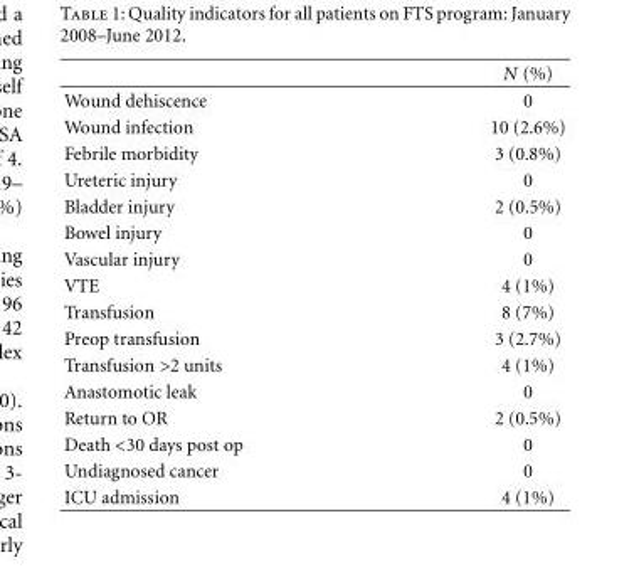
<table><thead><tr><td></td><td>N (%)</td></tr></thead><tbody><tr><td>Wound dehiscence</td><td>0</td></tr><tr><td>Wound infection</td><td>10 (2.6%)</td></tr><tr><td>Febrile morbidity</td><td>3 (0.8%)</td></tr><tr><td>Ureteric injury</td><td>0</td></tr><tr><td>Bladder injury</td><td>2 (0.5%)</td></tr><tr><td>Bowel injury</td><td>0</td></tr><tr><td>Vascular injury</td><td>0</td></tr><tr><td>VTE</td><td>4 (1%)</td></tr><tr><td>Transfusion</td><td>8 (7%)</td></tr><tr><td>Preop transfusion</td><td>3 (2.7%)</td></tr><tr><td>Transfusion &gt;2 units</td><td>4 (1%)</td></tr><tr><td>Anastomotic leak</td><td>0</td></tr><tr><td>Return to OR</td><td>2 (0.5%)</td></tr><tr><td>Death &lt;30 days post op</td><td>0</td></tr><tr><td>Undiagnosed cancer</td><td>0</td></tr><tr><td>ICU admission</td><td>4 (1%)</td></tr></tbody></table>